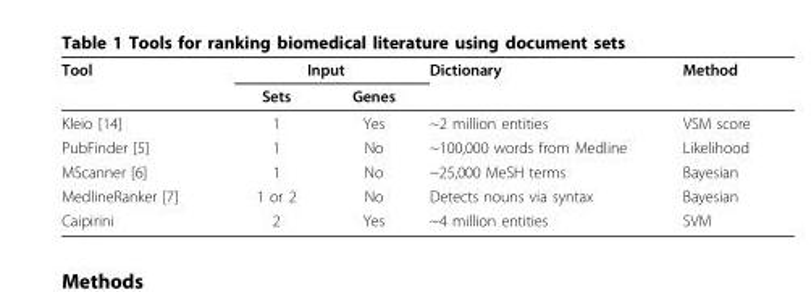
<table><thead><tr><td rowspan="2">Tool</td><td colspan="2">Input</td><td rowspan="2">Dictionary</td><td rowspan="2">Method</td></tr><tr><td>Sets</td><td>Genes</td></tr></thead><tbody><tr><td>Kleio [14]</td><td>1</td><td>Yes</td><td>~2 million entities</td><td>VSM score</td></tr><tr><td>PubFinder [5]</td><td>1</td><td>No</td><td>~100,000 words from Medline</td><td>Likelihood</td></tr><tr><td>MScanner [6]</td><td>1</td><td>No</td><td>~25,000 MeSH terms</td><td>Bayesian</td></tr><tr><td>MedlineRanker [7]</td><td>1 or 2</td><td>No</td><td>Detects nouns via syntax</td><td>Bayesian</td></tr><tr><td>Caipirini</td><td>2</td><td>Yes</td><td>~4 million entities</td><td>SVM</td></tr></tbody></table>